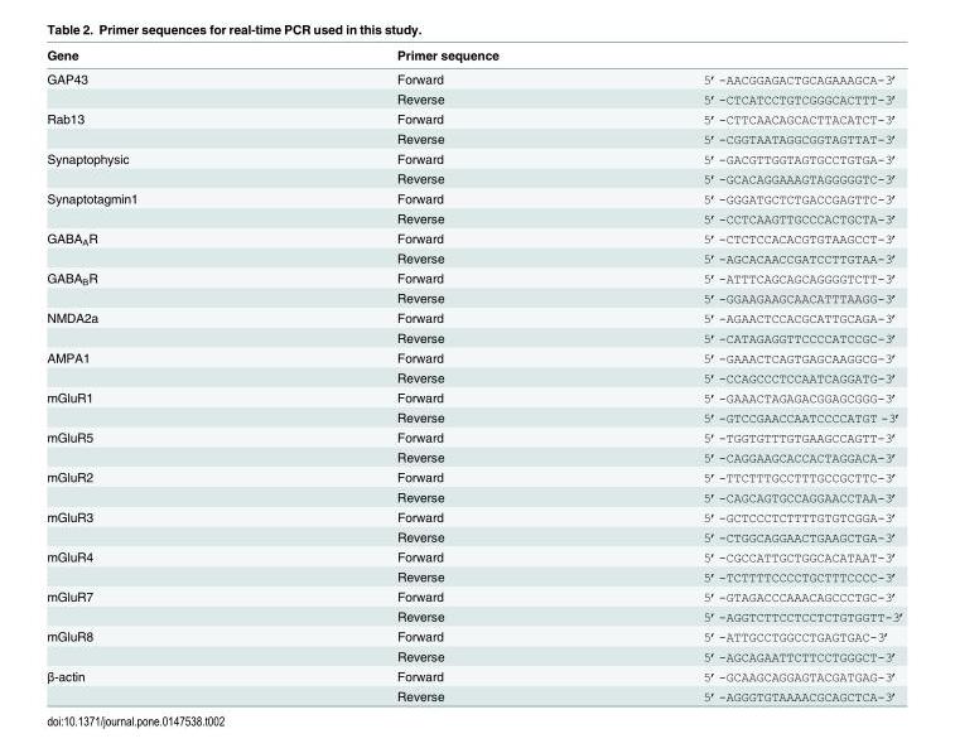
<table><thead><tr><td rowspan="2">Gene GAP43</td><td colspan="2">Primer sequence</td></tr><tr><td>Forward</td><td>5’-AACGGAGACTGCAGAAAGCA-3’</td></tr></thead><tbody><tr><td></td><td>Reverse</td><td>5’-CTCATCCTGTCGGGCACTTT-3’</td></tr><tr><td rowspan="2">Rab13</td><td>Forward</td><td>5’-CTTCAACAGCACTTACATCT-3’</td></tr><tr><td>Reverse</td><td>5’-CGGTAATAGGCGGTAGTTAT-3’</td></tr><tr><td rowspan="2">Synaptophysic</td><td>Forward</td><td>5’-GACGTTGGTAGTGCCTGTGA-3’</td></tr><tr><td>Reverse</td><td>5’-GCACAGGAAAGTAGGGGGTC-3’</td></tr><tr><td rowspan="2">Synaptotagmin1</td><td>Forward</td><td>5’-GGGATGCTCTGACCGAGTTC-3’</td></tr><tr><td>Reverse</td><td>5’-CCTCAAGTTGCCCACTGCTA-3’</td></tr><tr><td rowspan="2">GABA<sub>A</sub>R</td><td>Forward</td><td>5’-CTCTCCACACGTGTAAGCCT-3’</td></tr><tr><td>Reverse</td><td>5’-AGCACAACCGATCCTTGTAA-3’</td></tr><tr><td rowspan="2">GABA<sub>B</sub>R</td><td>Forward</td><td>5’-ATTTCAGCAGCAGGGGTCTT-3’</td></tr><tr><td>Reverse</td><td>5’-GGAAGAAGCAACATTTAAGG-3’</td></tr><tr><td rowspan="2">NMDA2a</td><td>Forward</td><td>5’-AGAACTCCACGCATTGCAGA-3’</td></tr><tr><td>Reverse</td><td>5’-CATAGAGGTTCCCCATCCGC-3’</td></tr><tr><td rowspan="2">AMPA1</td><td>Forward</td><td>5’-GAAACTCAGTGAGCAAGGCG-3’</td></tr><tr><td>Reverse</td><td>5’-CCAGCCCTCCAATCAGGATG-3’</td></tr><tr><td rowspan="2">mGluR1</td><td>Forward</td><td>5’-GAAACTAGAGACGGAGCGGG-3’</td></tr><tr><td>Reverse</td><td>5’-GTCCGAACCAATCCCCATGT -3’</td></tr><tr><td rowspan="2">mGluR5</td><td>Forward</td><td>5’-TGGTGTTTGTGAAGCCAGTT-3’</td></tr><tr><td>Reverse</td><td>5’-CAGGAAGCACCACTAGGACA-3’</td></tr><tr><td rowspan="2">mGluR2</td><td>Forward</td><td>5’-TTCTTTGCCTTTGCCGCTTC-3’</td></tr><tr><td>Reverse</td><td>5’-CAGCAGTGCCAGGAACCTAA-3’</td></tr><tr><td rowspan="2">mGluR3</td><td>Forward</td><td>5’-GCTCCCTCTTTTGTGTCGGA-3’</td></tr><tr><td>Reverse</td><td>5’-CTGGCAGGAACTGAAGCTGA-3’</td></tr><tr><td rowspan="2">mGluR4</td><td>Forward</td><td>5’-CGCCATTGCTGGCACATAAT-3’</td></tr><tr><td>Reverse</td><td>5’-TCTTTTCCCCTGCTTTCCCC-3’</td></tr><tr><td rowspan="2">mGluR7</td><td>Forward</td><td>5’-GTAGACCCAAACAGCCCTGC-3’</td></tr><tr><td>Reverse</td><td>5’-AGGTCTTCCTCCTCTGTGGTT-3’</td></tr><tr><td rowspan="2">mGluR8</td><td>Forward</td><td>5’-ATTGCCTGGCCTGAGTGAC-3’</td></tr><tr><td>Reverse</td><td>5’-AGCAGAATTCTTCCTGGGCT-3’</td></tr><tr><td rowspan="2">β-actin</td><td>Forward</td><td>5’-GCAAGCAGGAGTACGATGAG-3’</td></tr><tr><td>Reverse</td><td>5’-AGGGTGTAAAACGCAGCTCA-3’</td></tr></tbody></table>